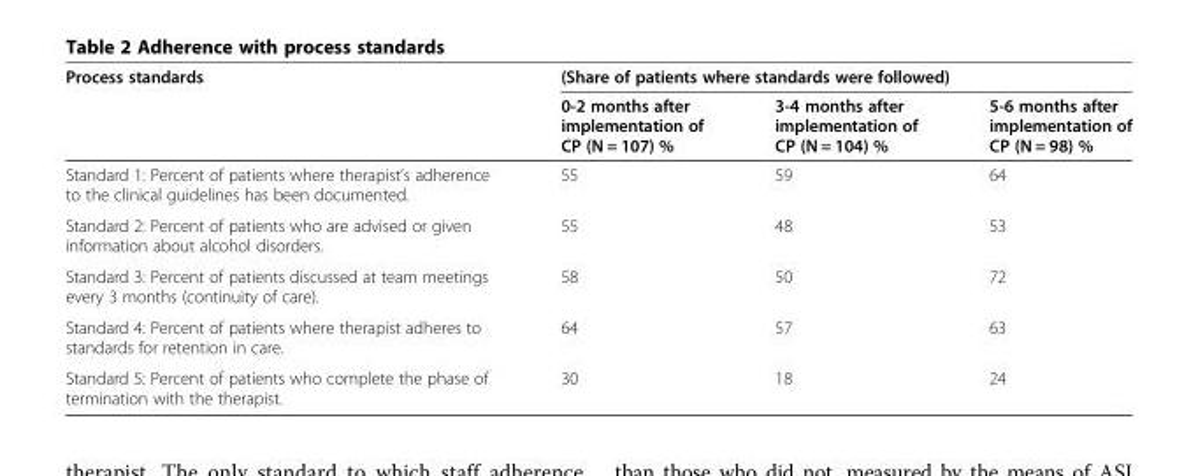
<table><thead><tr><td rowspan="2">Process standards</td><td colspan="3">(Share of patients where standards were followed)</td></tr><tr><td>0-2 months after implementation of CP (N = 107) %</td><td>3-4 months after implementation of CP (N = 104) %</td><td>5-6 months after implementation of CP (N = 98) %</td></tr></thead><tbody><tr><td>Standard 1: Percent of patients where therapist’s adherence to the clinical guidelines has been documented.</td><td>55</td><td>59</td><td>64</td></tr><tr><td>Standard 2: Percent of patients who are advised or given information about alcohol disorders.</td><td>55</td><td>48</td><td>53</td></tr><tr><td>Standard 3: Percent of patients discussed at team meetings every 3 months (continuity of care).</td><td>58</td><td>50</td><td>72</td></tr><tr><td>Standard 4: Percent of patients where therapist adheres to standards for retention in care.</td><td>64</td><td>57</td><td>63</td></tr><tr><td>Standard 5: Percent of patients who complete the phase of termination with the therapist.</td><td>30</td><td>18</td><td>24</td></tr></tbody></table>